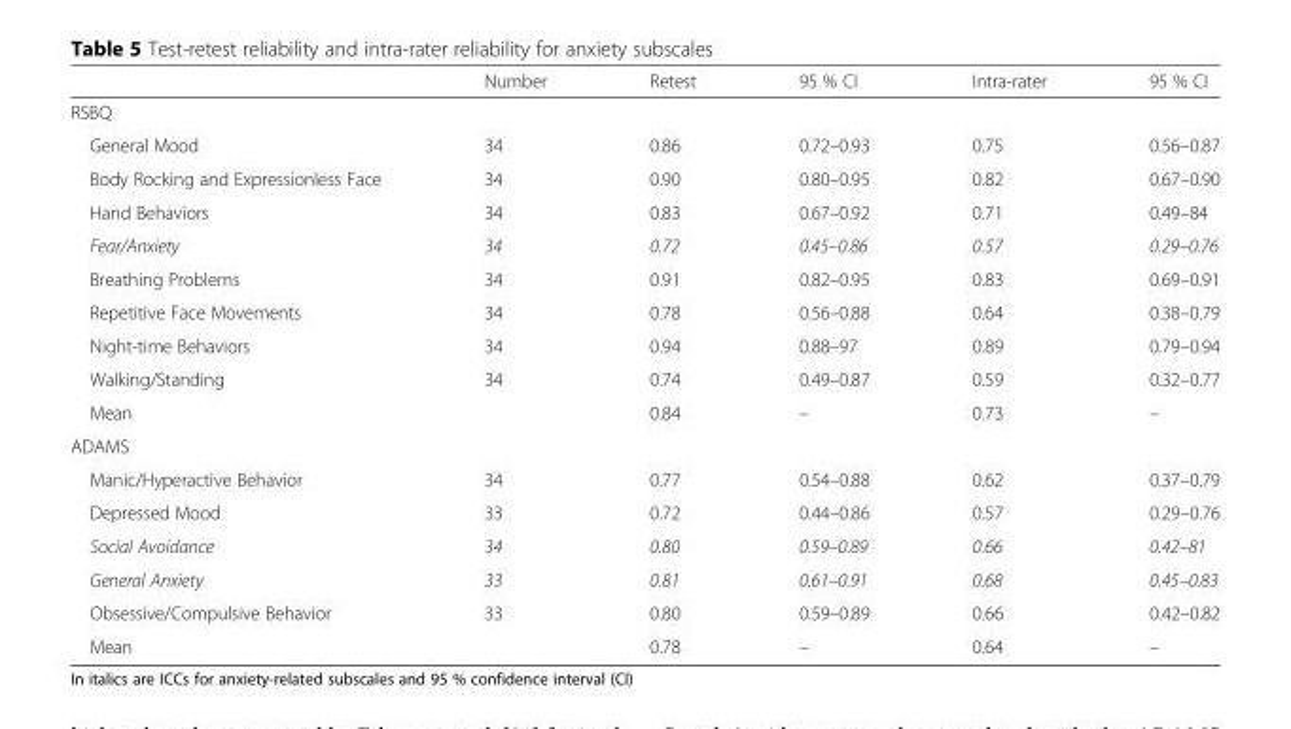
<table><thead><tr><td></td><td>Number</td><td>Retest</td><td>95 % CI</td><td>Intra-rater</td><td>95 % CI</td></tr></thead><tbody><tr><td colspan="6">RSBQ</td></tr><tr><td>General Mood</td><td>34</td><td>0.86</td><td>0.72–0.93</td><td>0.75</td><td>0.56–0.87</td></tr><tr><td>Body Rocking and Expressionless Face</td><td>34</td><td>0.90</td><td>0.80–0.95</td><td>0.82</td><td>0.67–0.90</td></tr><tr><td>Hand Behaviors</td><td>34</td><td>0.83</td><td>0.67–0.92</td><td>0.71</td><td>0.49–84</td></tr><tr><td>Fear/Anxiety</td><td>34</td><td>0.72</td><td>0.45–0.86</td><td>0.57</td><td>0.29–0.76</td></tr><tr><td>Breathing Problems</td><td>34</td><td>0.91</td><td>0.82–0.95</td><td>0.83</td><td>0.69–0.91</td></tr><tr><td>Repetitive Face Movements</td><td>34</td><td>0.78</td><td>0.56–0.88</td><td>0.64</td><td>0.38–0.79</td></tr><tr><td>Night-time Behaviors</td><td>34</td><td>0.94</td><td>0.88–97</td><td>0.89</td><td>0.79–0.94</td></tr><tr><td>Walking/Standing</td><td>34</td><td>0.74</td><td>0.49–0.87</td><td>0.59</td><td>0.32–0.77</td></tr><tr><td>Mean</td><td></td><td>0.84</td><td>–</td><td>0.73</td><td>–</td></tr><tr><td colspan="6">ADAMS</td></tr><tr><td>Manic/Hyperactive Behavior</td><td>34</td><td>0.77</td><td>0.54–0.88</td><td>0.62</td><td>0.37–0.79</td></tr><tr><td>Depressed Mood</td><td>33</td><td>0.72</td><td>0.44–0.86</td><td>0.57</td><td>0.29–0.76</td></tr><tr><td>Social Avoidance</td><td>34</td><td>0.80</td><td>0.59–0.89</td><td>0.66</td><td>0.42–81</td></tr><tr><td>General Anxiety</td><td>33</td><td>0.81</td><td>0.61–0.91</td><td>0.68</td><td>0.45–0.83</td></tr><tr><td>Obsessive/Compulsive Behavior</td><td>33</td><td>0.80</td><td>0.59–0.89</td><td>0.66</td><td>0.42–0.82</td></tr><tr><td>Mean</td><td></td><td>0.78</td><td>–</td><td>0.64</td><td>–</td></tr></tbody></table>